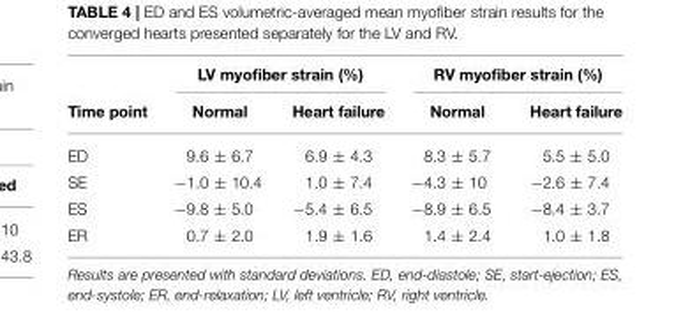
<table><thead><tr><td rowspan="2">Time point</td><td colspan="2">LV myofiber strain (%)</td><td colspan="2">RV myofiber strain (%)</td></tr><tr><td>Normal</td><td>Heart failure</td><td>Normal</td><td>Heart failure</td></tr></thead><tbody><tr><td>ED</td><td>9.6 ± 6.7</td><td>6.9 ± 4.3</td><td>8.3 ± 5.7</td><td>5.5 ± 5.0</td></tr><tr><td>SE</td><td>−1.0 ± 10.4</td><td>1.0 ± 7.4</td><td>−4.3 ± 10</td><td>−2.6 ± 7.4</td></tr><tr><td>ES</td><td>−9.8 ± 5.0</td><td>−5.4 ± 6.5</td><td>−8.9 ± 6.5</td><td>−8.4 ± 3.7</td></tr><tr><td>ER</td><td>0.7 ± 2.0</td><td>1.9 ± 1.6</td><td>1.4 ± 2.4</td><td>1.0 ± 1.8</td></tr></tbody></table>